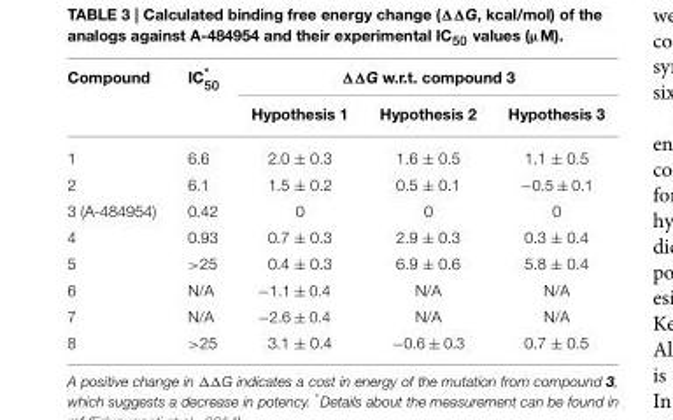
<table><thead><tr><td rowspan="2">Compound</td><td rowspan="2">IC* <sub>50</sub></td><td colspan="3">ΔΔG w.r.t. compound 3</td></tr><tr><td>Hypothesis 1</td><td>Hypothesis 2</td><td>Hypothesis 3</td></tr></thead><tbody><tr><td>1</td><td>6.6</td><td>2.0 ± 0.3</td><td>1.6 ± 0.5</td><td>1.1 ± 0.5</td></tr><tr><td>2</td><td>6.1</td><td>1.5 ± 0.2</td><td>0.5 ± 0.1</td><td>−0.5 ± 0.1</td></tr><tr><td>3 (A-484954)</td><td>0.42</td><td>0</td><td>0</td><td>0</td></tr><tr><td>4</td><td>0.93</td><td>0.7 ± 0.3</td><td>2.9 ± 0.3</td><td>0.3 ± 0.4</td></tr><tr><td>5</td><td>&gt;25</td><td>0.4 ± 0.3</td><td>6.9 ± 0.6</td><td>5.8 ± 0.4</td></tr><tr><td>6</td><td>N/A</td><td>−1.1 ± 0.4</td><td>N/A</td><td>N/A</td></tr><tr><td>7</td><td>N/A</td><td>−2.6 ± 0.4</td><td>N/A</td><td>N/A</td></tr><tr><td>8</td><td>&gt;25</td><td>3.1 ± 0.4</td><td>−0.6 ± 0.3</td><td>0.7 ± 0.5</td></tr></tbody></table>